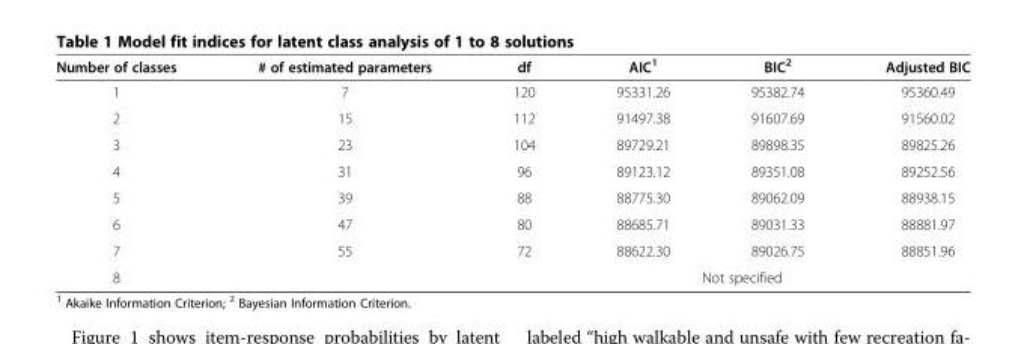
<table><thead><tr><td>Number of classes</td><td># of estimated parameters</td><td>df</td><td>AIC<sup>1</sup></td><td>BIC<sup>2</sup></td><td>Adjusted BIC</td></tr></thead><tbody><tr><td>1</td><td>7</td><td>120</td><td>95331.26</td><td>95382.74</td><td>95360.49</td></tr><tr><td>2</td><td>15</td><td>112</td><td>91497.38</td><td>91607.69</td><td>91560.02</td></tr><tr><td>3</td><td>23</td><td>104</td><td>89729.21</td><td>89898.35</td><td>89825.26</td></tr><tr><td>4</td><td>31</td><td>96</td><td>89123.12</td><td>89351.08</td><td>89252.56</td></tr><tr><td>5</td><td>39</td><td>88</td><td>88775.30</td><td>89062.09</td><td>88938.15</td></tr><tr><td>6</td><td>47</td><td>80</td><td>88685.71</td><td>89031.33</td><td>88881.97</td></tr><tr><td>7</td><td>55</td><td>72</td><td>88622.30</td><td>89026.75</td><td>88851.96</td></tr><tr><td>8</td><td></td><td colspan="4">Not specified</td></tr></tbody></table>